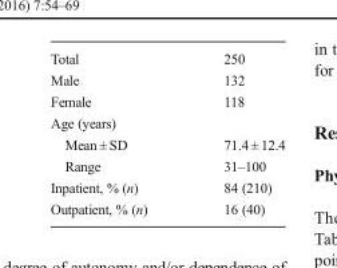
<table><tbody><tr><td>Total</td><td>250</td></tr><tr><td>Male</td><td>132</td></tr><tr><td>Female</td><td>118</td></tr><tr><td colspan="2">Age (years)</td></tr><tr><td>Mean ± SD</td><td>71.4 ± 12.4</td></tr><tr><td>Range</td><td>31–100</td></tr><tr><td>Inpatient, % (n)</td><td>84 (210)</td></tr><tr><td>Outpatient, % (n)</td><td>16 (40)</td></tr></tbody></table>